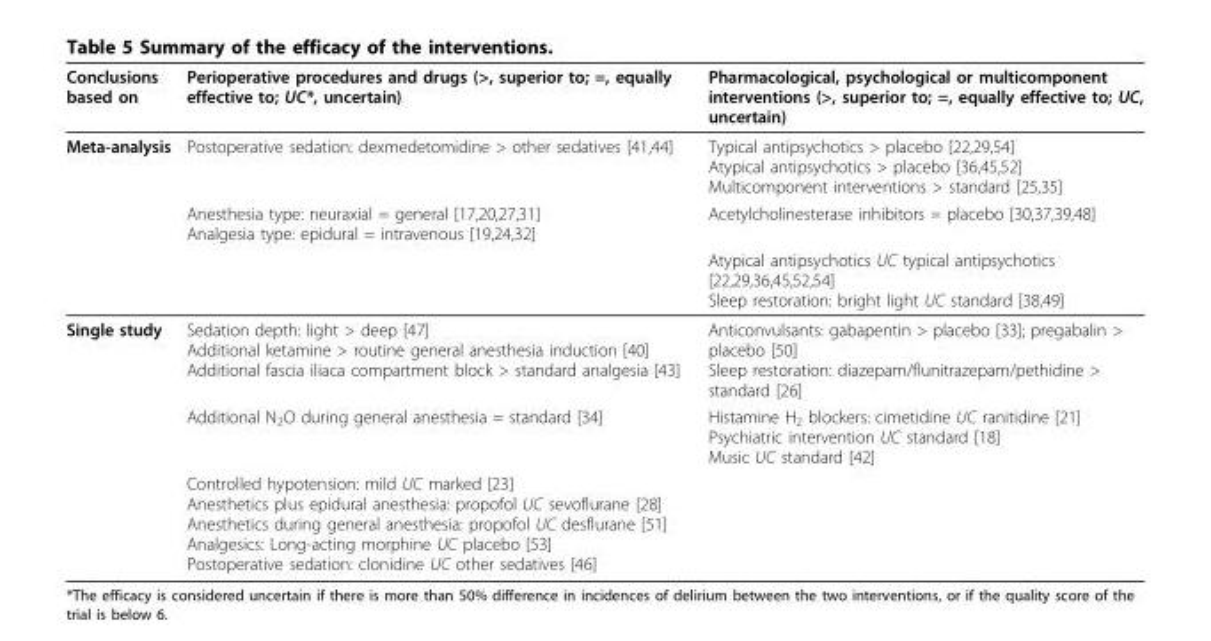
<table><thead><tr><td>Conclusions based on</td><td>Perioperative procedures and drugs (&gt;, superior to; =, equally effective to; UC*, uncertain)</td><td>Pharmacological, psychological or multicomponent interventions (&gt;, superior to; =, equally effective to; UC, uncertain)</td></tr></thead><tbody><tr><td rowspan="3">Meta-analysis</td><td>Postoperative sedation: dexmedetomidine &gt; other sedatives [41,44]</td><td>Typical antipsychotics &gt; placebo [22,29,54] Atypical antipsychotics &gt; placebo [36,45,52] Multicomponent interventions &gt; standard [25,35]</td></tr><tr><td>Anesthesia type: neuraxial = general [17,20,27,31] Analgesia type: epidural = intravenous [19,24,32]</td><td>Acetylcholinesterase inhibitors = placebo [30,37,39,48]</td></tr><tr><td></td><td>Atypical antipsychotics UC typical antipsychotics [22,29,36,45,52,54] Sleep restoration: bright light UC standard [38,49]</td></tr><tr><td rowspan="3">Single study</td><td>Sedation depth: light &gt; deep [47] Additional ketamine &gt; routine general anesthesia induction [40] Additional fascia iliaca compartment block &gt; standard analgesia [43]</td><td>Anticonvulsants: gabapentin &gt; placebo [33]; pregabalin &gt; placebo [50] Sleep restoration: diazepam/flunitrazepam/pethidine &gt; standard [26]</td></tr><tr><td>Additional N<sub>2</sub>O during general anesthesia = standard [34]</td><td>Histamine H<sub>2</sub> blockers: cimetidine UC ranitidine [21] Psychiatric intervention UC standard [18] Music UC standard [42]</td></tr><tr><td>Controlled hypotension: mild UC marked [23] Anesthetics plus epidural anesthesia: propofol UC sevoflurane [28] Anesthetics during general anesthesia: propofol UC desflurane [51] Analgesics: Long-acting morphine UC placebo [53] Postoperative sedation: clonidine UC other sedatives [46]</td><td></td></tr></tbody></table>